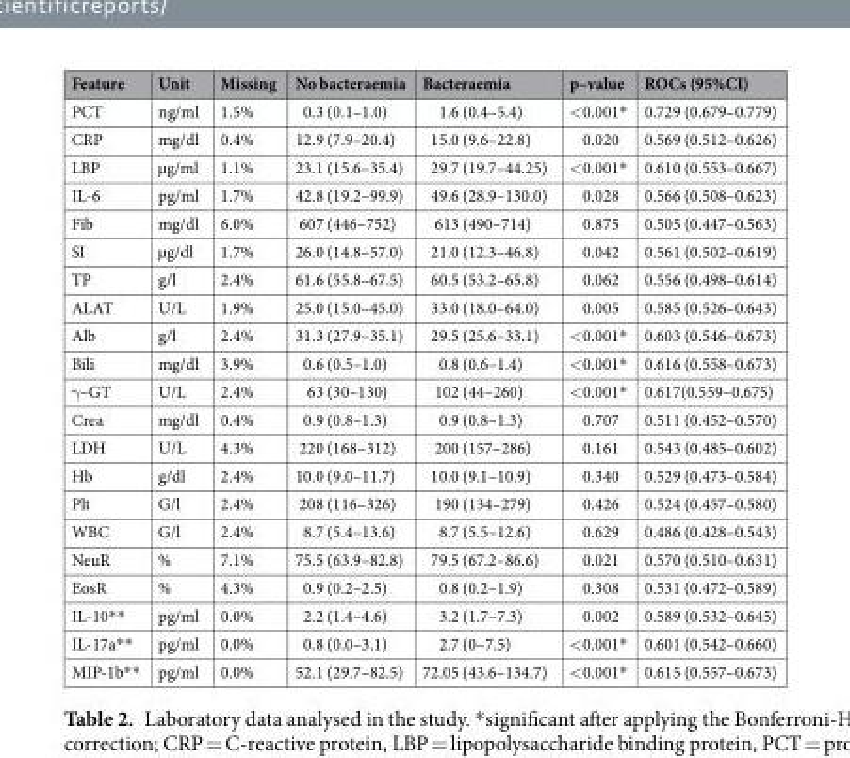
<table><thead><tr><td>Feature</td><td>Unit</td><td>Missing</td><td>No bacteraemia</td><td>Bacteraemia</td><td>p–value</td><td>ROCs (95%CI)</td></tr></thead><tbody><tr><td>PCT</td><td>ng/ml</td><td>1.5%</td><td>0.3 (0.1–1.0)</td><td>1.6 (0.4–5.4)</td><td>&lt;0.001*</td><td>0.729 (0.679–0.779)</td></tr><tr><td>CRP</td><td>mg/dl</td><td>0.4%</td><td>12.9 (7.9–20.4)</td><td>15.0 (9.6–22.8)</td><td>0.020</td><td>0.569 (0.512–0.626)</td></tr><tr><td>LBP</td><td>µg/ml</td><td>1.1%</td><td>23.1 (15.6–35.4)</td><td>29.7 (19.7–44.25)</td><td>&lt;0.001*</td><td>0.610 (0.553–0.667)</td></tr><tr><td>IL-6</td><td>pg/ml</td><td>1.7%</td><td>42.8 (19.2–99.9)</td><td>49.6 (28.9–130.0)</td><td>0.028</td><td>0.566 (0.508–0.623)</td></tr><tr><td>Fib</td><td>mg/dl</td><td>6.0%</td><td>607 (446–752)</td><td>613 (490–714)</td><td>0.875</td><td>0.505 (0.447–0.563)</td></tr><tr><td>SI</td><td>µg/dl</td><td>1.7%</td><td>26.0 (14.8–57.0)</td><td>21.0 (12.3–46.8)</td><td>0.042</td><td>0.561 (0.502–0.619)</td></tr><tr><td>TP</td><td>g/l</td><td>2.4%</td><td>61.6 (55.8–67.5)</td><td>60.5 (53.2–65.8)</td><td>0.062</td><td>0.556 (0.498–0.614)</td></tr><tr><td>ALAT</td><td>U/L</td><td>1.9%</td><td>25.0 (15.0–45.0)</td><td>33.0 (18.0–64.0)</td><td>0.005</td><td>0.585 (0.526–0.643)</td></tr><tr><td>Alb</td><td>g/l</td><td>2.4%</td><td>31.3 (27.9–35.1)</td><td>29.5 (25.6–33.1)</td><td>&lt;0.001*</td><td>0.603 (0.546–0.673)</td></tr><tr><td>Bili</td><td>mg/dl</td><td>3.9%</td><td>0.6 (0.5–1.0)</td><td>0.8 (0.6–1.4)</td><td>&lt;0.001*</td><td>0.616 (0.558–0.673)</td></tr><tr><td>γ–GT</td><td>U/L</td><td>2.4%</td><td>63 (30–130)</td><td>102 (44–260)</td><td>&lt;0.001*</td><td>0.617(0.559–0.675)</td></tr><tr><td>Crea</td><td>mg/dl</td><td>0.4%</td><td>0.9 (0.8–1.3)</td><td>0.9 (0.8–1.3)</td><td>0.707</td><td>0.511 (0.452–0.570)</td></tr><tr><td>LDH</td><td>U/L</td><td>4.3%</td><td>220 (168–312)</td><td>200 (157–286)</td><td>0.161</td><td>0.543 (0.485–0.602)</td></tr><tr><td>Hb</td><td>g/dl</td><td>2.4%</td><td>10.0 (9.0–11.7)</td><td>10.0 (9.1–10.9)</td><td>0.340</td><td>0.529 (0.473–0.584)</td></tr><tr><td>Plt</td><td>G/l</td><td>2.4%</td><td>208 (116–326)</td><td>190 (134–279)</td><td>0.426</td><td>0.524 (0.457–0.580)</td></tr><tr><td>WBC</td><td>G/l</td><td>2.4%</td><td>8.7 (5.4–13.6)</td><td>8.7 (5.5–12.6)</td><td>0.629</td><td>0.486 (0.428–0.543)</td></tr><tr><td>NeuR</td><td>%</td><td>7.1%</td><td>75.5 (63.9–82.8)</td><td>79.5 (67.2–86.6)</td><td>0.021</td><td>0.570 (0.510–0.631)</td></tr><tr><td>EosR</td><td>%</td><td>4.3%</td><td>0.9 (0.2–2.5)</td><td>0.8 (0.2–1.9)</td><td>0.308</td><td>0.531 (0.472–0.589)</td></tr><tr><td>IL-10**</td><td>pg/ml</td><td>0.0%</td><td>2.2 (1.4–4.6)</td><td>3.2 (1.7–7.3)</td><td>0.002</td><td>0.589 (0.532–0.645)</td></tr><tr><td>IL-17a**</td><td>pg/ml</td><td>0.0%</td><td>0.8 (0.0–3.1)</td><td>2.7 (0–7.5)</td><td>&lt;0.001*</td><td>0.601 (0.542–0.660)</td></tr><tr><td>MIP-1b**</td><td>pg/ml</td><td>0.0%</td><td>52.1 (29.7–82.5)</td><td>72.05 (43.6–134.7)</td><td>&lt;0.001*</td><td>0.615 (0.557–0.673)</td></tr></tbody></table>